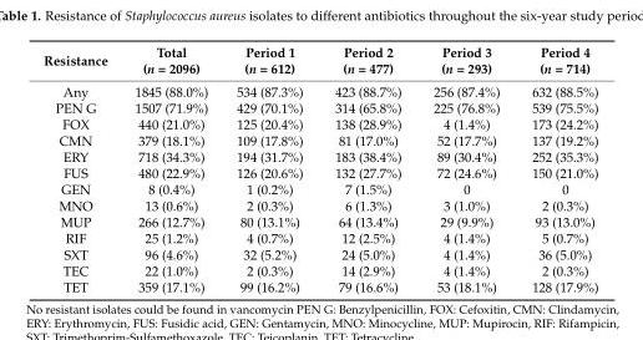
<table><thead><tr><td>Resistance</td><td>Total (n = 2096)</td><td>Period 1 (n = 612)</td><td>Period 2 (n = 477)</td><td>Period 3 (n = 293)</td><td>Period 4 (n = 714)</td></tr></thead><tbody><tr><td>Any</td><td>1845 (88.0%)</td><td>534 (87.3%)</td><td>423 (88.7%)</td><td>256 (87.4%)</td><td>632 (88.5%)</td></tr><tr><td>PEN G</td><td>1507 (71.9%)</td><td>429 (70.1%)</td><td>314 (65.8%)</td><td>225 (76.8%)</td><td>539 (75.5%)</td></tr><tr><td>FOX</td><td>440 (21.0%)</td><td>125 (20.4%)</td><td>138 (28.9%)</td><td>4 (1.4%)</td><td>173 (24.2%)</td></tr><tr><td>CMN</td><td>379 (18.1%)</td><td>109 (17.8%)</td><td>81 (17.0%)</td><td>52 (17.7%)</td><td>137 (19.2%)</td></tr><tr><td>ERY</td><td>718 (34.3%)</td><td>194 (31.7%)</td><td>183 (38.4%)</td><td>89 (30.4%)</td><td>252 (35.3%)</td></tr><tr><td>FUS</td><td>480 (22.9%)</td><td>126 (20.6%)</td><td>132 (27.7%)</td><td>72 (24.6%)</td><td>150 (21.0%)</td></tr><tr><td>GEN</td><td>8 (0.4%)</td><td>1 (0.2%)</td><td>7 (1.5%)</td><td>0</td><td>0</td></tr><tr><td>MNO</td><td>13 (0.6%)</td><td>2 (0.3%)</td><td>6 (1.3%)</td><td>3 (1.0%)</td><td>2 (0.3%)</td></tr><tr><td>MUP</td><td>266 (12.7%)</td><td>80 (13.1%)</td><td>64 (13.4%)</td><td>29 (9.9%)</td><td>93 (13.0%)</td></tr><tr><td>RIF</td><td>25 (1.2%)</td><td>4 (0.7%)</td><td>12 (2.5%)</td><td>4 (1.4%)</td><td>5 (0.7%)</td></tr><tr><td>SXT</td><td>96 (4.6%)</td><td>32 (5.2%)</td><td>24 (5.0%)</td><td>4 (1.4%)</td><td>36 (5.0%)</td></tr><tr><td>TEC</td><td>22 (1.0%)</td><td>2 (0.3%)</td><td>14 (2.9%)</td><td>4 (1.4%)</td><td>2 (0.3%)</td></tr><tr><td>TET</td><td>359 (17.1%)</td><td>99 (16.2%)</td><td>79 (16.6%)</td><td>53 (18.1%)</td><td>128 (17.9%)</td></tr></tbody></table>